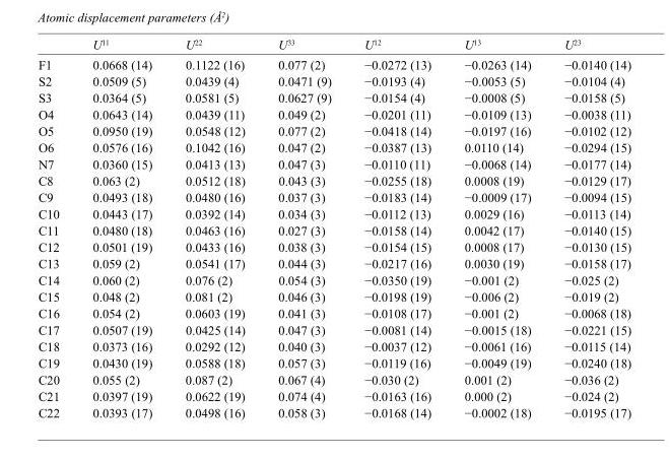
<table><thead><tr><td></td><td>U<sup>11</sup></td><td>U<sup>22</sup></td><td>U<sup>33</sup></td><td>U<sup>12</sup></td><td>U<sup>13</sup></td><td>U<sup>23</sup></td></tr></thead><tbody><tr><td>F1</td><td>0.0668 (14)</td><td>0.1122 (16)</td><td>0.077 (2)</td><td>−0.0272 (13)</td><td>−0.0263 (14)</td><td>−0.0140 (14)</td></tr><tr><td>S2</td><td>0.0509 (5)</td><td>0.0439 (4)</td><td>0.0471 (9)</td><td>−0.0193 (4)</td><td>−0.0053 (5)</td><td>−0.0104 (4)</td></tr><tr><td>S3</td><td>0.0364 (5)</td><td>0.0581 (5)</td><td>0.0627 (9)</td><td>−0.0154 (4)</td><td>−0.0008 (5)</td><td>−0.0158 (5)</td></tr><tr><td>O4</td><td>0.0643 (14)</td><td>0.0439 (11)</td><td>0.049 (2)</td><td>−0.0201 (11)</td><td>−0.0109 (13)</td><td>−0.0038 (11)</td></tr><tr><td>O5</td><td>0.0950 (19)</td><td>0.0548 (12)</td><td>0.077 (2)</td><td>−0.0418 (14)</td><td>−0.0197 (16)</td><td>−0.0102 (12)</td></tr><tr><td>O6</td><td>0.0576 (16)</td><td>0.1042 (16)</td><td>0.047 (2)</td><td>−0.0387 (13)</td><td>0.0110 (14)</td><td>−0.0294 (15)</td></tr><tr><td>N7</td><td>0.0360 (15)</td><td>0.0413 (13)</td><td>0.047 (3)</td><td>−0.0110 (11)</td><td>−0.0068 (14)</td><td>−0.0177 (14)</td></tr><tr><td>C8</td><td>0.063 (2)</td><td>0.0512 (18)</td><td>0.043 (3)</td><td>−0.0255 (18)</td><td>0.0008 (19)</td><td>−0.0129 (17)</td></tr><tr><td>C9</td><td>0.0493 (18)</td><td>0.0480 (16)</td><td>0.037 (3)</td><td>−0.0183 (14)</td><td>−0.0009 (17)</td><td>−0.0094 (15)</td></tr><tr><td>C10</td><td>0.0443 (17)</td><td>0.0392 (14)</td><td>0.034 (3)</td><td>−0.0112 (13)</td><td>0.0029 (16)</td><td>−0.0113 (14)</td></tr><tr><td>C11</td><td>0.0480 (18)</td><td>0.0463 (16)</td><td>0.027 (3)</td><td>−0.0158 (14)</td><td>0.0042 (17)</td><td>−0.0140 (15)</td></tr><tr><td>C12</td><td>0.0501 (19)</td><td>0.0433 (16)</td><td>0.038 (3)</td><td>−0.0154 (15)</td><td>0.0008 (17)</td><td>−0.0130 (15)</td></tr><tr><td>C13</td><td>0.059 (2)</td><td>0.0541 (17)</td><td>0.044 (3)</td><td>−0.0217 (16)</td><td>0.0030 (19)</td><td>−0.0158 (17)</td></tr><tr><td>C14</td><td>0.060 (2)</td><td>0.076 (2)</td><td>0.054 (3)</td><td>−0.0350 (19)</td><td>−0.001 (2)</td><td>−0.025 (2)</td></tr><tr><td>C15</td><td>0.048 (2)</td><td>0.081 (2)</td><td>0.046 (3)</td><td>−0.0198 (19)</td><td>−0.006 (2)</td><td>−0.019 (2)</td></tr><tr><td>C16</td><td>0.054 (2)</td><td>0.0603 (19)</td><td>0.041 (3)</td><td>−0.0108 (17)</td><td>−0.001 (2)</td><td>−0.0068 (18)</td></tr><tr><td>C17</td><td>0.0507 (19)</td><td>0.0425 (14)</td><td>0.047 (3)</td><td>−0.0081 (14)</td><td>−0.0015 (18)</td><td>−0.0221 (15)</td></tr><tr><td>C18</td><td>0.0373 (16)</td><td>0.0292 (12)</td><td>0.040 (3)</td><td>−0.0037 (12)</td><td>−0.0061 (16)</td><td>−0.0115 (14)</td></tr><tr><td>C19</td><td>0.0430 (19)</td><td>0.0588 (18)</td><td>0.057 (3)</td><td>−0.0119 (16)</td><td>−0.0049 (19)</td><td>−0.0240 (18)</td></tr><tr><td>C20</td><td>0.055 (2)</td><td>0.087 (2)</td><td>0.067 (4)</td><td>−0.030 (2)</td><td>0.001 (2)</td><td>−0.036 (2)</td></tr><tr><td>C21</td><td>0.0397 (19)</td><td>0.0622 (19)</td><td>0.074 (4)</td><td>−0.0163 (16)</td><td>0.000 (2)</td><td>−0.024 (2)</td></tr><tr><td>C22</td><td>0.0393 (17)</td><td>0.0498 (16)</td><td>0.058 (3)</td><td>−0.0168 (14)</td><td>−0.0002 (18)</td><td>−0.0195 (17)</td></tr></tbody></table>